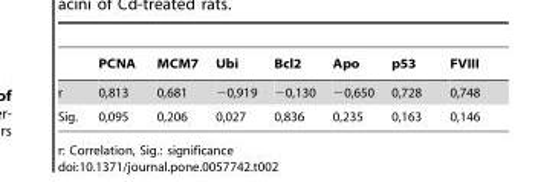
<table><thead><tr><td></td><td>PCNA</td><td>MCM7</td><td>Ubi</td><td>Bcl2</td><td>Apo</td><td>p53</td><td>FVIII</td></tr></thead><tbody><tr><td>r</td><td>0,813</td><td>0,681</td><td>−0,919</td><td>−0,130</td><td>−0,650</td><td>0,728</td><td>0,748</td></tr><tr><td>Sig.</td><td>0,095</td><td>0,206</td><td>0,027</td><td>0,836</td><td>0,235</td><td>0,163</td><td>0,146</td></tr></tbody></table>